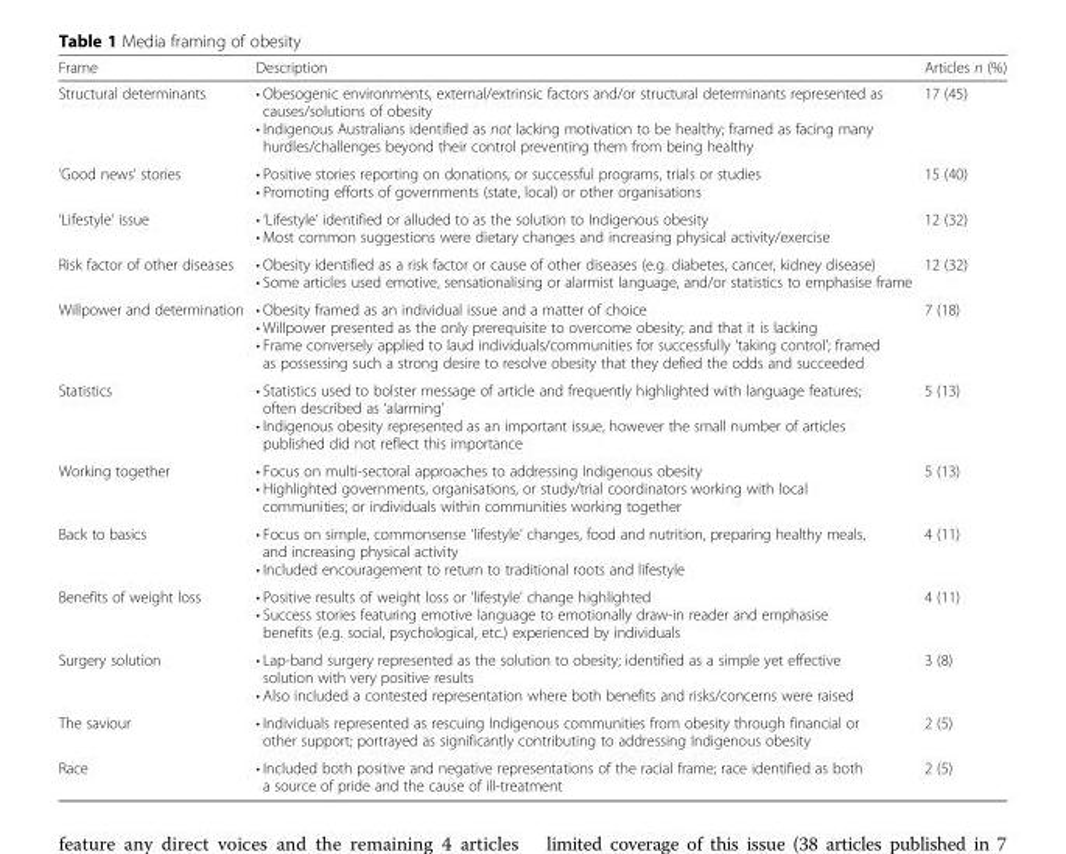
<table><thead><tr><td>Frame</td><td>Description</td><td>Articles n (%)</td></tr></thead><tbody><tr><td>Structural determinants</td><td>• Obesogenic environments, external/extrinsic factors and/or structural determinants represented as causes/solutions of obesity • Indigenous Australians identified as not lacking motivation to be healthy; framed as facing many hurdles/challenges beyond their control preventing them from being healthy</td><td>17 (45)</td></tr><tr><td>‘Good news’ stories</td><td>• Positive stories reporting on donations, or successful programs, trials or studies • Promoting efforts of governments (state, local) or other organisations</td><td>15 (40)</td></tr><tr><td>‘Lifestyle’ issue</td><td>• ‘Lifestyle’ identified or alluded to as the solution to Indigenous obesity • Most common suggestions were dietary changes and increasing physical activity/exercise</td><td>12 (32)</td></tr><tr><td>Risk factor of other diseases</td><td>• Obesity identified as a risk factor or cause of other diseases (e.g. diabetes, cancer, kidney disease) • Some articles used emotive, sensationalising or alarmist language, and/or statistics to emphasise frame</td><td>12 (32)</td></tr><tr><td>Willpower and determination</td><td>• Obesity framed as an individual issue and a matter of choice • Willpower presented as the only prerequisite to overcome obesity; and that it is lacking • Frame conversely applied to laud individuals/communities for successfully ‘taking control’; framed as possessing such a strong desire to resolve obesity that they defied the odds and succeeded</td><td>7 (18)</td></tr><tr><td>Statistics</td><td>• Statistics used to bolster message of article and frequently highlighted with language features; often described as ‘alarming’ • Indigenous obesity represented as an important issue, however the small number of articles published did not reflect this importance</td><td>5 (13)</td></tr><tr><td>Working together</td><td>• Focus on multi-sectoral approaches to addressing Indigenous obesity • Highlighted governments, organisations, or study/trial coordinators working with local communities; or individuals within communities working together</td><td>5 (13)</td></tr><tr><td>Back to basics</td><td>• Focus on simple, commonsense ‘lifestyle’ changes, food and nutrition, preparing healthy meals, and increasing physical activity • Included encouragement to return to traditional roots and lifestyle</td><td>4 (11)</td></tr><tr><td>Benefits of weight loss</td><td>• Positive results of weight loss or ‘lifestyle’ change highlighted • Success stories featuring emotive language to emotionally draw-in reader and emphasise benefits (e.g. social, psychological, etc.) experienced by individuals</td><td>4 (11)</td></tr><tr><td>Surgery solution</td><td>• Lap-band surgery represented as the solution to obesity; identified as a simple yet effective solution with very positive results • Also included a contested representation where both benefits and risks/concerns were raised</td><td>3 (8)</td></tr><tr><td>The saviour</td><td>• Individuals represented as rescuing Indigenous communities from obesity through financial or other support; portrayed as significantly contributing to addressing Indigenous obesity</td><td>2 (5)</td></tr><tr><td>Race</td><td>• Included both positive and negative representations of the racial frame; race identified as both a source of pride and the cause of ill-treatment</td><td>2 (5)</td></tr></tbody></table>